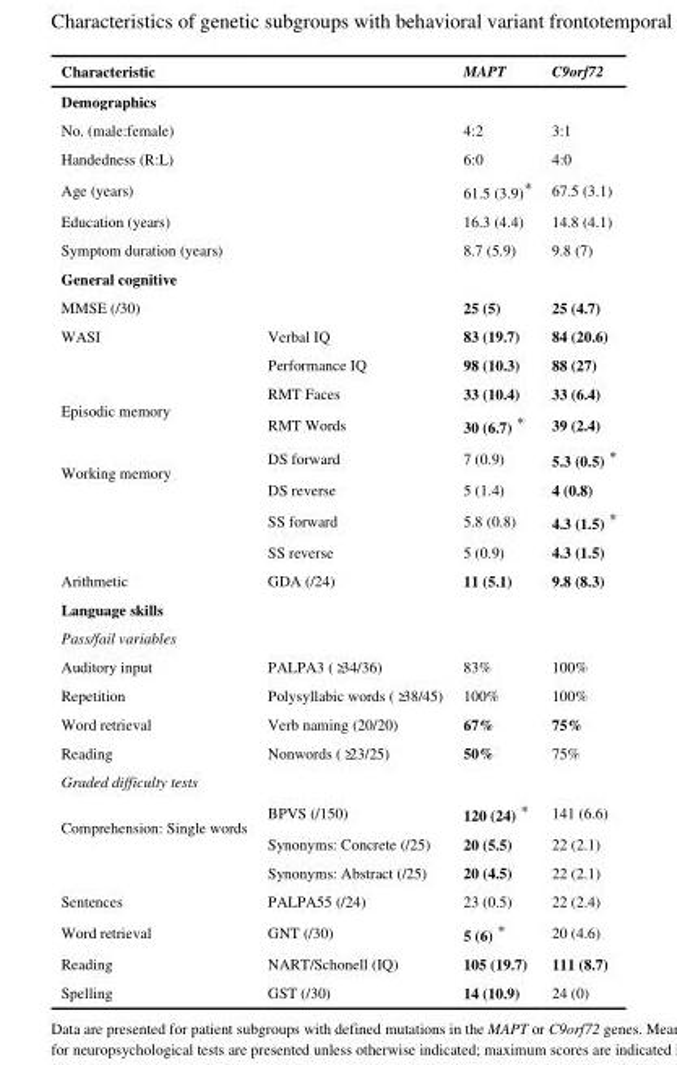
<table><thead><tr><td>Characteristic</td><td></td><td>MAPT</td><td>C9orf72</td></tr></thead><tbody><tr><td colspan="4">Demographics</td></tr><tr><td>No. (male:female)</td><td></td><td>4:2</td><td>3:1</td></tr><tr><td>Handedness (R:L)</td><td></td><td>6:0</td><td>4:0</td></tr><tr><td>Age (years)</td><td></td><td>61.5 (3.9)*</td><td>67.5 (3.1)</td></tr><tr><td>Education (years)</td><td></td><td>16.3 (4.4)</td><td>14.8 (4.1)</td></tr><tr><td colspan="2">Symptom duration (years)</td><td>8.7 (5.9)</td><td>9.8 (7)</td></tr><tr><td colspan="4">General cognitive</td></tr><tr><td>MMSE (/30)</td><td></td><td>25 (5)</td><td>25 (4.7)</td></tr><tr><td rowspan="2">WASI</td><td>Verbal IQ</td><td>83 (19.7)</td><td>84 (20.6)</td></tr><tr><td>Performance IQ</td><td>98 (10.3)</td><td>88 (27)</td></tr><tr><td rowspan="2">Episodic memory</td><td>RMT Faces</td><td>33 (10.4)</td><td>33 (6.4)</td></tr><tr><td>RMT Words</td><td>30 (6.7) *</td><td>39 (2.4)</td></tr><tr><td rowspan="4">Working memory</td><td>DS forward</td><td>7 (0.9)</td><td>5.3 (0.5) *</td></tr><tr><td>DS reverse</td><td>5 (1.4)</td><td>4 (0.8)</td></tr><tr><td>SS forward</td><td>5.8 (0.8)</td><td>4.3 (1.5) *</td></tr><tr><td>SS reverse</td><td>5 (0.9)</td><td>4.3 (1.5)</td></tr><tr><td>Arithmetic</td><td>GDA (/24)</td><td>11 (5.1)</td><td>9.8 (8.3)</td></tr><tr><td colspan="4">Language skills</td></tr><tr><td colspan="4">Pass/fail variables</td></tr><tr><td>Auditory input</td><td>PALPA3 (≥34/36)</td><td>83%</td><td>100%</td></tr><tr><td>Repetition</td><td>Polysyllabic words (≥38/45)</td><td>100%</td><td>100%</td></tr><tr><td>Word retrieval</td><td>Verb naming (20/20)</td><td>67%</td><td>75%</td></tr><tr><td>Reading</td><td>Nonwords (≥23/25)</td><td>50%</td><td>75%</td></tr><tr><td colspan="4">Graded difficulty tests</td></tr><tr><td rowspan="3">Comprehension: Single words</td><td>BPVS (/150)</td><td>120 (24) *</td><td>141 (6.6)</td></tr><tr><td>Synonyms: Concrete (/25)</td><td>20 (5.5)</td><td>22 (2.1)</td></tr><tr><td>Synonyms: Abstract (/25)</td><td>20 (4.5)</td><td>22 (2.1)</td></tr><tr><td>Sentences</td><td>PALPA55 (/24)</td><td>23 (0.5)</td><td>22 (2.4)</td></tr><tr><td>Word retrieval</td><td>GNT (/30)</td><td>5 (6) *</td><td>20 (4.6)</td></tr><tr><td>Reading</td><td>NART/Schonell (IQ)</td><td>105 (19.7)</td><td>111 (8.7)</td></tr><tr><td>Spelling</td><td>GST (/30)</td><td>14 (10.9)</td><td>24 (0)</td></tr></tbody></table>